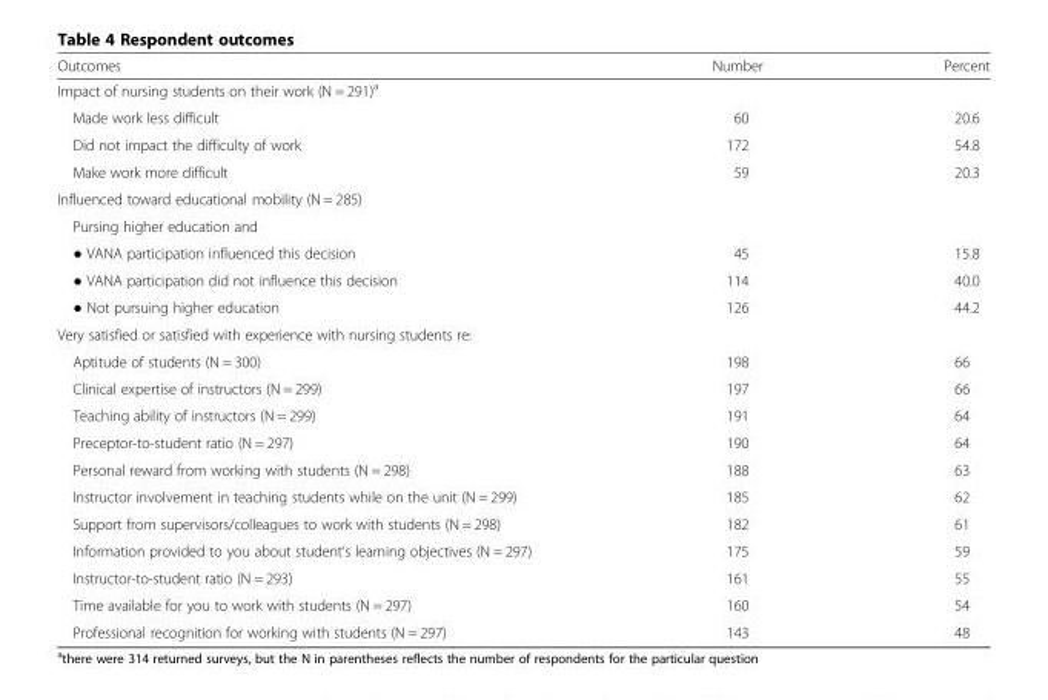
<table><thead><tr><td>Outcomes</td><td>Number</td><td>Percent</td></tr></thead><tbody><tr><td colspan="3">Impact of nursing students on their work (N = 291)<sup>a</sup></td></tr><tr><td>Made work less difficult</td><td>60</td><td>20.6</td></tr><tr><td>Did not impact the difficulty of work</td><td>172</td><td>54.8</td></tr><tr><td>Make work more difficult</td><td>59</td><td>20.3</td></tr><tr><td colspan="3">Influenced toward educational mobility (N = 285)</td></tr><tr><td colspan="3">Pursing higher education and</td></tr><tr><td>● VANA participation influenced this decision</td><td>45</td><td>15.8</td></tr><tr><td>● VANA participation did not influence this decision</td><td>114</td><td>40.0</td></tr><tr><td>● Not pursuing higher education</td><td>126</td><td>44.2</td></tr><tr><td colspan="3">Very satisfied or satisfied with experience with nursing students re:</td></tr><tr><td>Aptitude of students (N = 300)</td><td>198</td><td>66</td></tr><tr><td>Clinical expertise of instructors (N = 299)</td><td>197</td><td>66</td></tr><tr><td>Teaching ability of instructors (N = 299)</td><td>191</td><td>64</td></tr><tr><td>Preceptor-to-student ratio (N = 297)</td><td>190</td><td>64</td></tr><tr><td>Personal reward from working with students (N = 298)</td><td>188</td><td>63</td></tr><tr><td>Instructor involvement in teaching students while on the unit (N = 299)</td><td>185</td><td>62</td></tr><tr><td>Support from supervisors/colleagues to work with students (N = 298)</td><td>182</td><td>61</td></tr><tr><td>Information provided to you about student’s learning objectives (N = 297)</td><td>175</td><td>59</td></tr><tr><td>Instructor-to-student ratio (N = 293)</td><td>161</td><td>55</td></tr><tr><td>Time available for you to work with students (N = 297)</td><td>160</td><td>54</td></tr><tr><td>Professional recognition for working with students (N = 297)</td><td>143</td><td>48</td></tr></tbody></table>